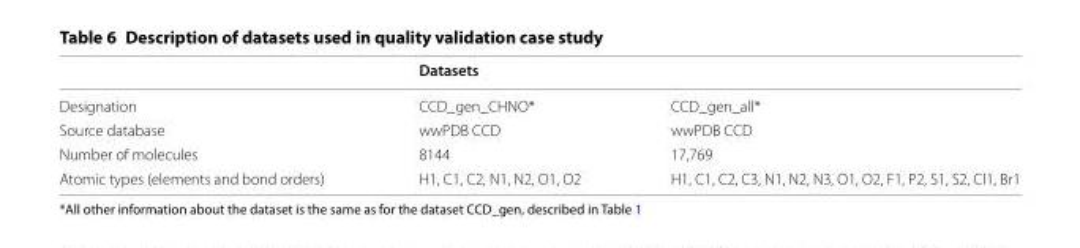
<table><thead><tr><td rowspan="2">Designation</td><td colspan="2">Datasets</td></tr><tr><td>CCD_gen_CHNO*</td><td>CCD_gen_all*</td></tr></thead><tbody><tr><td>Source database</td><td>wwPDB CCD</td><td>wwPDB CCD</td></tr><tr><td>Number of molecules</td><td>8144</td><td>17,769</td></tr><tr><td>Atomic types (elements and bond orders)</td><td>H1, C1, C2, N1, N2, O1, O2</td><td>H1, C1, C2, C3, N1, N2, N3, O1, O2, F1, P2, S1, S2, Cl1, Br1</td></tr></tbody></table>